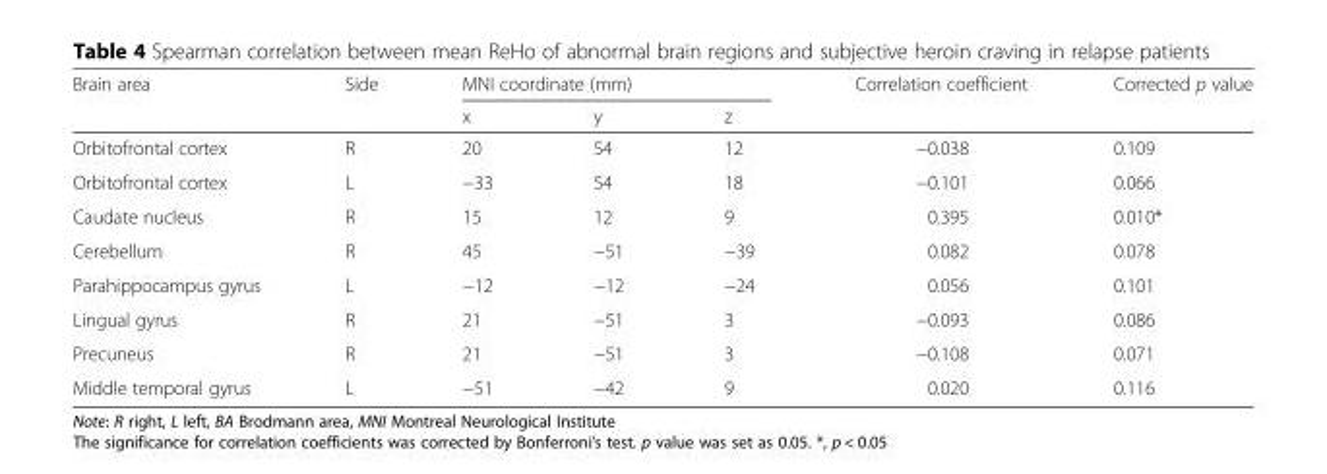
<table><thead><tr><td rowspan="2">Brain area</td><td rowspan="2">Side</td><td colspan="3">MNI coordinate (mm)</td><td rowspan="2">Correlation coefficient</td><td rowspan="2">Corrected p value</td></tr><tr><td>x</td><td>y</td><td>z</td></tr></thead><tbody><tr><td>Orbitofrontal cortex</td><td>R</td><td>20</td><td>54</td><td>12</td><td>−0.038</td><td>0.109</td></tr><tr><td>Orbitofrontal cortex</td><td>L</td><td>−33</td><td>54</td><td>18</td><td>−0.101</td><td>0.066</td></tr><tr><td>Caudate nucleus</td><td>R</td><td>15</td><td>12</td><td>9</td><td>0.395</td><td>0.010*</td></tr><tr><td>Cerebellum</td><td>R</td><td>45</td><td>−51</td><td>−39</td><td>0.082</td><td>0.078</td></tr><tr><td>Parahippocampus gyrus</td><td>L</td><td>−12</td><td>−12</td><td>−24</td><td>0.056</td><td>0.101</td></tr><tr><td>Lingual gyrus</td><td>R</td><td>21</td><td>−51</td><td>3</td><td>−0.093</td><td>0.086</td></tr><tr><td>Precuneus</td><td>R</td><td>21</td><td>−51</td><td>3</td><td>−0.108</td><td>0.071</td></tr><tr><td>Middle temporal gyrus</td><td>L</td><td>−51</td><td>−42</td><td>9</td><td>0.020</td><td>0.116</td></tr></tbody></table>